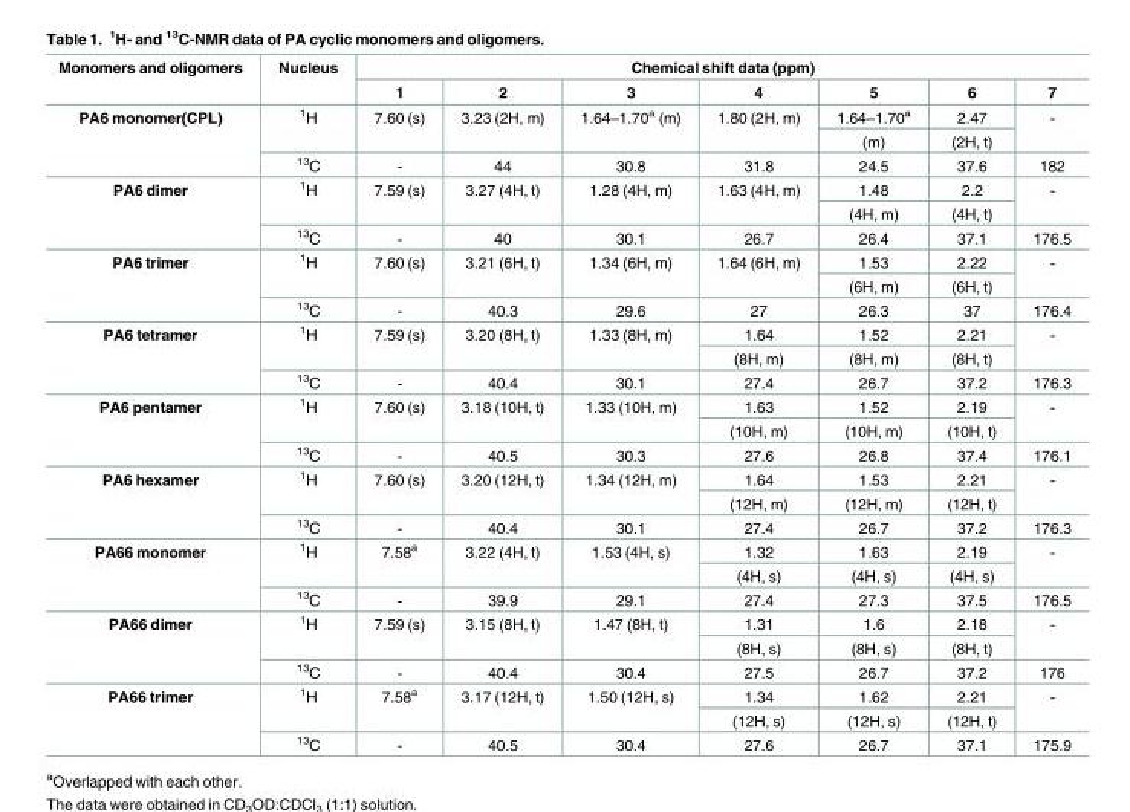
<table><thead><tr><td rowspan="2">Monomers and oligomers</td><td rowspan="2">Nucleus</td><td colspan="7">Chemical shift data (ppm)</td></tr><tr><td>1</td><td>2</td><td>3</td><td>4</td><td>5</td><td>6</td><td>7</td></tr></thead><tbody><tr><td rowspan="3">PA6 monomer(CPL)</td><td rowspan="2"><sup>1</sup>H</td><td rowspan="2">7.60 (s)</td><td rowspan="2">3.23 (2H, m)</td><td rowspan="2">1.64–1.70<sup>a</sup> (m)</td><td rowspan="2">1.80 (2H, m)</td><td>1.64–1.70<sup>a</sup></td><td>2.47</td><td rowspan="2">-</td></tr><tr><td>(m)</td><td>(2H, t)</td></tr><tr><td><sup>13</sup>C</td><td>-</td><td>44</td><td>30.8</td><td>31.8</td><td>24.5</td><td>37.6</td><td>182</td></tr><tr><td rowspan="3">PA6 dimer</td><td rowspan="2"><sup>1</sup>H</td><td rowspan="2">7.59 (s)</td><td rowspan="2">3.27 (4H, t)</td><td rowspan="2">1.28 (4H, m)</td><td rowspan="2">1.63 (4H, m)</td><td>1.48</td><td>2.2</td><td rowspan="2">-</td></tr><tr><td>(4H, m)</td><td>(4H, t)</td></tr><tr><td><sup>13</sup>C</td><td>-</td><td>40</td><td>30.1</td><td>26.7</td><td>26.4</td><td>37.1</td><td>176.5</td></tr><tr><td rowspan="3">PA6 trimer</td><td rowspan="2"><sup>1</sup>H</td><td rowspan="2">7.60 (s)</td><td rowspan="2">3.21 (6H, t)</td><td rowspan="2">1.34 (6H, m)</td><td rowspan="2">1.64 (6H, m)</td><td>1.53</td><td>2.22</td><td rowspan="2">-</td></tr><tr><td>(6H, m)</td><td>(6H, t)</td></tr><tr><td><sup>13</sup>C</td><td>-</td><td>40.3</td><td>29.6</td><td>27</td><td>26.3</td><td>37</td><td>176.4</td></tr><tr><td rowspan="3">PA6 tetramer</td><td rowspan="2"><sup>1</sup>H</td><td rowspan="2">7.59 (s)</td><td rowspan="2">3.20 (8H, t)</td><td rowspan="2">1.33 (8H, m)</td><td>1.64</td><td>1.52</td><td>2.21</td><td rowspan="2">-</td></tr><tr><td>(8H, m)</td><td>(8H, m)</td><td>(8H, t)</td></tr><tr><td><sup>13</sup>C</td><td>-</td><td>40.4</td><td>30.1</td><td>27.4</td><td>26.7</td><td>37.2</td><td>176.3</td></tr><tr><td rowspan="3">PA6 pentamer</td><td rowspan="2"><sup>1</sup>H</td><td rowspan="2">7.60 (s)</td><td rowspan="2">3.18 (10H, t)</td><td rowspan="2">1.33 (10H, m)</td><td>1.63</td><td>1.52</td><td>2.19</td><td rowspan="2">-</td></tr><tr><td>(10H, m)</td><td>(10H, m)</td><td>(10H, t)</td></tr><tr><td><sup>13</sup>C</td><td>-</td><td>40.5</td><td>30.3</td><td>27.6</td><td>26.8</td><td>37.4</td><td>176.1</td></tr><tr><td rowspan="3">PA6 hexamer</td><td rowspan="2"><sup>1</sup>H</td><td rowspan="2">7.60 (s)</td><td rowspan="2">3.20 (12H, t)</td><td rowspan="2">1.34 (12H, m)</td><td>1.64</td><td>1.53</td><td>2.21</td><td rowspan="2">-</td></tr><tr><td>(12H, m)</td><td>(12H, m)</td><td>(12H, t)</td></tr><tr><td><sup>13</sup>C</td><td>-</td><td>40.4</td><td>30.1</td><td>27.4</td><td>26.7</td><td>37.2</td><td>176.3</td></tr><tr><td rowspan="3">PA66 monomer</td><td rowspan="2"><sup>1</sup>H</td><td rowspan="2">7.58<sup>a</sup></td><td rowspan="2">3.22 (4H, t)</td><td rowspan="2">1.53 (4H, s)</td><td>1.32</td><td>1.63</td><td>2.19</td><td rowspan="2">-</td></tr><tr><td>(4H, s)</td><td>(4H, s)</td><td>(4H, s)</td></tr><tr><td><sup>13</sup>C</td><td>-</td><td>39.9</td><td>29.1</td><td>27.4</td><td>27.3</td><td>37.5</td><td>176.5</td></tr><tr><td rowspan="3">PA66 dimer</td><td rowspan="2"><sup>1</sup>H</td><td rowspan="2">7.59 (s)</td><td rowspan="2">3.15 (8H, t)</td><td rowspan="2">1.47 (8H, t)</td><td>1.31</td><td>1.6</td><td>2.18</td><td rowspan="2">-</td></tr><tr><td>(8H, s)</td><td>(8H, s)</td><td>(8H, t)</td></tr><tr><td><sup>13</sup>C</td><td>-</td><td>40.4</td><td>30.4</td><td>27.5</td><td>26.7</td><td>37.2</td><td>176</td></tr><tr><td rowspan="3">PA66 trimer</td><td rowspan="2"><sup>1</sup>H</td><td rowspan="2">7.58<sup>a</sup></td><td rowspan="2">3.17 (12H, t)</td><td rowspan="2">1.50 (12H, s)</td><td>1.34</td><td>1.62</td><td>2.21</td><td rowspan="2">-</td></tr><tr><td>(12H, s)</td><td>(12H, s)</td><td>(12H, t)</td></tr><tr><td><sup>13</sup>C</td><td>-</td><td>40.5</td><td>30.4</td><td>27.6</td><td>26.7</td><td>37.1</td><td>175.9</td></tr></tbody></table>